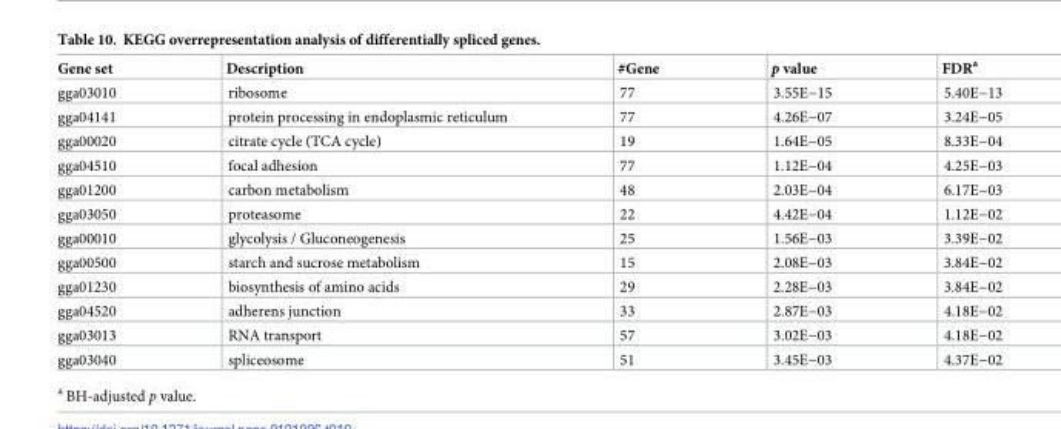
<table><thead><tr><td>Gene set</td><td>Description</td><td>#Gene</td><td>p value</td><td>FDR<sup>a</sup></td></tr></thead><tbody><tr><td>gga03010</td><td>ribosome</td><td>77</td><td>3.55E−15</td><td>5.40E−13</td></tr><tr><td>gga04141</td><td>protein processing in endoplasmic reticulum</td><td>77</td><td>4.26E−07</td><td>3.24E−05</td></tr><tr><td>gga00020</td><td>citrate cycle (TCA cycle)</td><td>19</td><td>1.64E−05</td><td>8.33E−04</td></tr><tr><td>gga04510</td><td>focal adhesion</td><td>77</td><td>1.12E−04</td><td>4.25E−03</td></tr><tr><td>gga01200</td><td>carbon metabolism</td><td>48</td><td>2.03E−04</td><td>6.17E−03</td></tr><tr><td>gga03050</td><td>proteasome</td><td>22</td><td>4.42E−04</td><td>1.12E−02</td></tr><tr><td>gga00010</td><td>glycolysis / Gluconeogenesis</td><td>25</td><td>1.56E−03</td><td>3.39E−02</td></tr><tr><td>gga00500</td><td>starch and sucrose metabolism</td><td>15</td><td>2.08E−03</td><td>3.84E−02</td></tr><tr><td>gga01230</td><td>biosynthesis of amino acids</td><td>29</td><td>2.28E−03</td><td>3.84E−02</td></tr><tr><td>gga04520</td><td>adherens junction</td><td>33</td><td>2.87E−03</td><td>4.18E−02</td></tr><tr><td>gga03013</td><td>RNA transport</td><td>57</td><td>3.02E−03</td><td>4.18E−02</td></tr><tr><td>gga03040</td><td>spliceosome</td><td>51</td><td>3.45E−03</td><td>4.37E−02</td></tr></tbody></table>